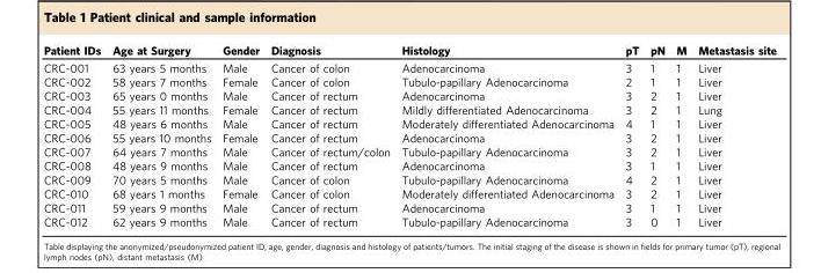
<table><thead><tr><td>Patient IDs</td><td>Age at Surgery</td><td>Gender</td><td>Diagnosis</td><td>Histology</td><td>pT</td><td>pN</td><td>M</td><td>Metastasis site</td></tr></thead><tbody><tr><td>CRC-001</td><td>63 years 5 months</td><td>Male</td><td>Cancer of colon</td><td>Adenocarcinoma</td><td>3</td><td>1</td><td>1</td><td>Liver</td></tr><tr><td>CRC-002</td><td>58 years 7 months</td><td>Female</td><td>Cancer of colon</td><td>Tubulo-papillary Adenocarcinoma</td><td>2</td><td>1</td><td>1</td><td>Liver</td></tr><tr><td>CRC-003</td><td>65 years 0 months</td><td>Male</td><td>Cancer of rectum</td><td>Adenocarcinoma</td><td>3</td><td>2</td><td>1</td><td>Liver</td></tr><tr><td>CRC-004</td><td>55 years 11 months</td><td>Female</td><td>Cancer of rectum</td><td>Mildly differentiated Adenocarcinoma</td><td>3</td><td>2</td><td>1</td><td>Lung</td></tr><tr><td>CRC-005</td><td>48 years 6 months</td><td>Male</td><td>Cancer of rectum</td><td>Moderately differentiated Adenocarcinoma</td><td>4</td><td>1</td><td>1</td><td>Liver</td></tr><tr><td>CRC-006</td><td>55 years 10 months</td><td>Female</td><td>Cancer of rectum</td><td>Adenocarcinoma</td><td>3</td><td>2</td><td>1</td><td>Liver</td></tr><tr><td>CRC-007</td><td>64 years 7 months</td><td>Male</td><td>Cancer of rectum/colon</td><td>Tubulo-papillary Adenocarcinoma</td><td>3</td><td>2</td><td>1</td><td>Liver</td></tr><tr><td>CRC-008</td><td>48 years 9 months</td><td>Male</td><td>Cancer of rectum</td><td>Adenocarcinoma</td><td>3</td><td>1</td><td>1</td><td>Liver</td></tr><tr><td>CRC-009</td><td>70 years 5 months</td><td>Male</td><td>Cancer of colon</td><td>Tubulo-papillary Adenocarcinoma</td><td>4</td><td>2</td><td>1</td><td>Liver</td></tr><tr><td>CRC-010</td><td>68 years 1 months</td><td>Female</td><td>Cancer of colon</td><td>Moderately differentiated Adenocarcinoma</td><td>3</td><td>2</td><td>1</td><td>Liver</td></tr><tr><td>CRC-011</td><td>59 years 9 months</td><td>Male</td><td>Cancer of rectum</td><td>Adenocarcinoma</td><td>3</td><td>1</td><td>1</td><td>Liver</td></tr><tr><td>CRC-012</td><td>62 years 9 months</td><td>Male</td><td>Cancer of rectum</td><td>Tubulo-papillary Adenocarcinoma</td><td>3</td><td>0</td><td>1</td><td>Liver</td></tr></tbody></table>